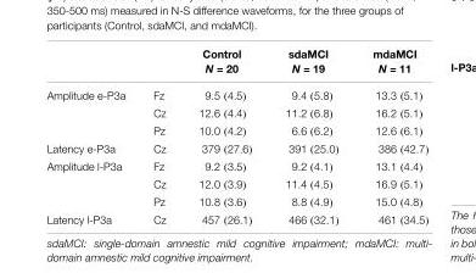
<table><thead><tr><td></td><td></td><td>Control N = 20</td><td>sdaMCI N = 19</td><td>mdaMCI N = 11</td></tr></thead><tbody><tr><td rowspan="3">Amplitude e-P3a</td><td>Fz</td><td>9.5 (4.5)</td><td>9.4 (5.8)</td><td>13.3 (5.1)</td></tr><tr><td>Cz</td><td>12.6 (4.4)</td><td>11.2 (6.8)</td><td>16.2 (5.1)</td></tr><tr><td>Pz</td><td>10.0 (4.2)</td><td>6.6 (6.2)</td><td>12.6 (6.1)</td></tr><tr><td>Latency e-P3a</td><td>Cz</td><td>379 (27.6)</td><td>391 (25.0)</td><td>386 (42.7)</td></tr><tr><td rowspan="3">Amplitude l-P3a</td><td>Fz</td><td>9.2 (3.5)</td><td>9.2 (4.1)</td><td>13.1 (4.4)</td></tr><tr><td>Cz</td><td>12.0 (3.9)</td><td>11.4 (4.5)</td><td>16.9 (5.1)</td></tr><tr><td>Pz</td><td>10.8 (3.6)</td><td>8.8 (4.9)</td><td>15.0 (4.8)</td></tr><tr><td>Latency l-P3a</td><td>Cz</td><td>457 (26.1)</td><td>466 (32.1)</td><td>461 (34.5)</td></tr></tbody></table>